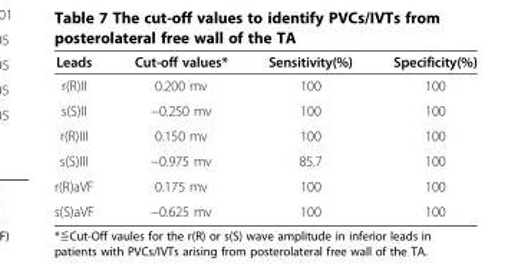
<table><thead><tr><td>Leads</td><td>Cut-off values*</td><td>Sensitivity(%)</td><td>Specificity(%)</td></tr></thead><tbody><tr><td>r(R)II</td><td>0.200 mv</td><td>100</td><td>100</td></tr><tr><td>s(S)II</td><td>−0.250 mv</td><td>100</td><td>100</td></tr><tr><td>r(R)III</td><td>0.150 mv</td><td>100</td><td>100</td></tr><tr><td>s(S)III</td><td>−0.975 mv</td><td>85.7</td><td>100</td></tr><tr><td>r(R)aVF</td><td>0.175 mv</td><td>100</td><td>100</td></tr><tr><td>s(S)aVF</td><td>−0.625 mv</td><td>100</td><td>100</td></tr></tbody></table>